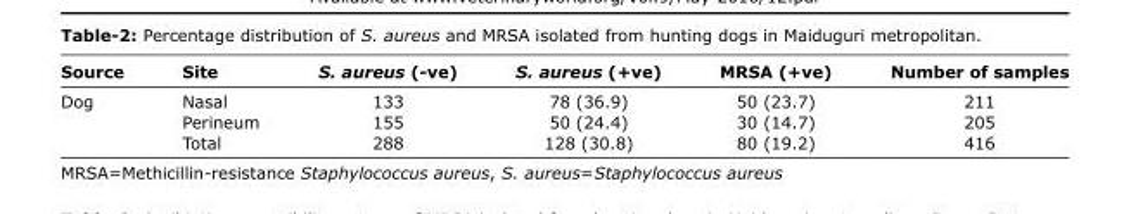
<table><thead><tr><td>Source</td><td>Site</td><td>S. aureus (-ve)</td><td>S. aureus (+ve)</td><td>MRSA (+ve)</td><td>Number of samples</td></tr></thead><tbody><tr><td rowspan="3">Dog</td><td>Nasal</td><td>133</td><td>78 (36.9)</td><td>50 (23.7)</td><td>211</td></tr><tr><td>Perineum</td><td>155</td><td>50 (24.4)</td><td>30 (14.7)</td><td>205</td></tr><tr><td>Total</td><td>288</td><td>128 (30.8)</td><td>80 (19.2)</td><td>416</td></tr></tbody></table>